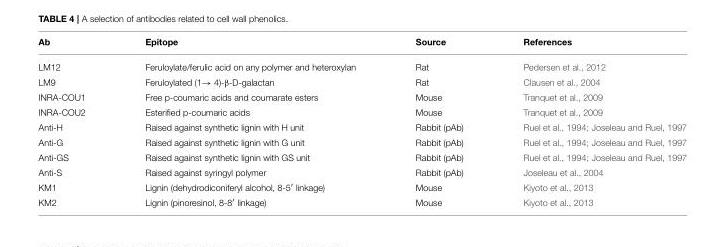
<table><thead><tr><td>Ab</td><td>Epitope</td><td>Source</td><td>References</td></tr></thead><tbody><tr><td>LM12</td><td>Feruloylate/ferulic acid on any polymer and heteroxylan</td><td>Rat</td><td>Pedersen et al., 2012</td></tr><tr><td>LM9</td><td>Feruloylated (1→ 4)-β-D-galactan</td><td>Rat</td><td>Clausen et al., 2004</td></tr><tr><td>INRA-COU1</td><td>Free p-coumaric acids and coumarate esters</td><td>Mouse</td><td>Tranquet et al., 2009</td></tr><tr><td>INRA-COU2</td><td>Esterified p-coumaric acids</td><td>Mouse</td><td>Tranquet et al., 2009</td></tr><tr><td>Anti-H</td><td>Raised against synthetic lignin with H unit</td><td>Rabbit (pAb)</td><td>Ruel et al., 1994; Joseleau and Ruel, 1997</td></tr><tr><td>Anti-G</td><td>Raised against synthetic lignin with G unit</td><td>Rabbit (pAb)</td><td>Ruel et al., 1994; Joseleau and Ruel, 1997</td></tr><tr><td>Anti-GS</td><td>Raised against synthetic lignin with GS unit</td><td>Rabbit (pAb)</td><td>Ruel et al., 1994; Joseleau and Ruel, 1997</td></tr><tr><td>Anti-S</td><td>Raised against syringyl polymer</td><td>Rabbit (pAb)</td><td>Joseleau et al., 2004</td></tr><tr><td>KM1</td><td>Lignin (dehydrodiconiferyl alcohol, 8-5′ linkage)</td><td>Mouse</td><td>Kiyoto et al., 2013</td></tr><tr><td>KM2</td><td>Lignin (pinoresinol, 8-8′ linkage)</td><td>Mouse</td><td>Kiyoto et al., 2013</td></tr></tbody></table>